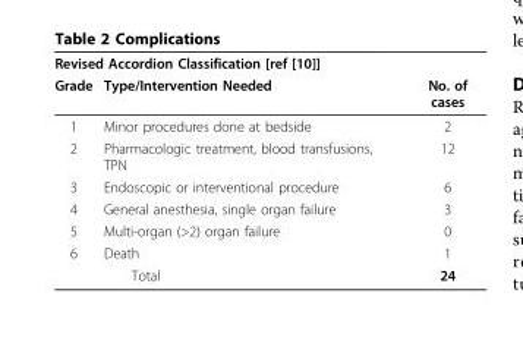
<table><thead><tr><td colspan="3">Revised Accordion Classification [ref [10]]</td></tr><tr><td>Grade</td><td>Type/Intervention Needed</td><td>No. of cases</td></tr></thead><tbody><tr><td>1</td><td>Minor procedures done at bedside</td><td>2</td></tr><tr><td>2</td><td>Pharmacologic treatment, blood transfusions, TPN</td><td>12</td></tr><tr><td>3</td><td>Endoscopic or interventional procedure</td><td>6</td></tr><tr><td>4</td><td>General anesthesia, single organ failure</td><td>3</td></tr><tr><td>5</td><td>Multi-organ (&gt;2) organ failure</td><td>0</td></tr><tr><td rowspan="2">6</td><td>Death</td><td>1</td></tr><tr><td>Total</td><td>24</td></tr></tbody></table>